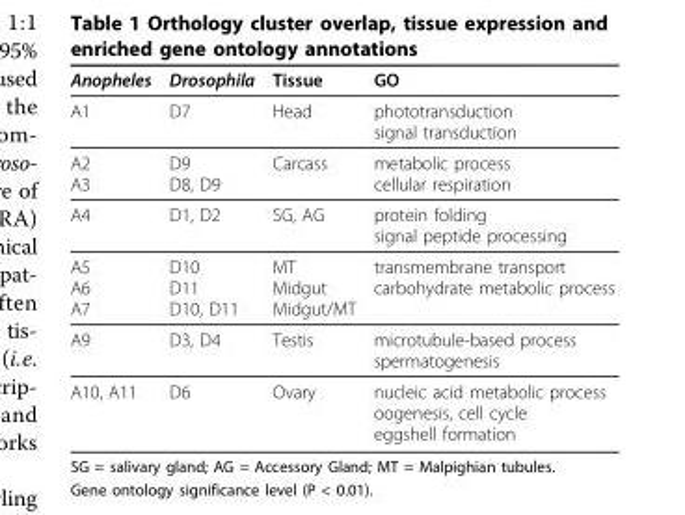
<table><thead><tr><td>Anopheles</td><td>Drosophila</td><td>Tissue</td><td>GO</td></tr></thead><tbody><tr><td>A1</td><td>D7</td><td>Head</td><td>phototransduction signal transduction</td></tr><tr><td>A2 A3</td><td>D9 D8, D9</td><td>Carcass</td><td>metabolic process cellular respiration</td></tr><tr><td>A4</td><td>D1, D2</td><td>SG, AG</td><td>protein folding signal peptide processing</td></tr><tr><td>A5 A6 A7</td><td>D10 D11 D10, D11</td><td>MT Midgut Midgut/MT</td><td>transmembrane transport carbohydrate metabolic process</td></tr><tr><td>A9</td><td>D3, D4</td><td>Testis</td><td>microtubule-based process spermatogenesis</td></tr><tr><td>A10, A11</td><td>D6</td><td>Ovary</td><td>nucleic acid metabolic process oogenesis, cell cycle eggshell formation</td></tr></tbody></table>